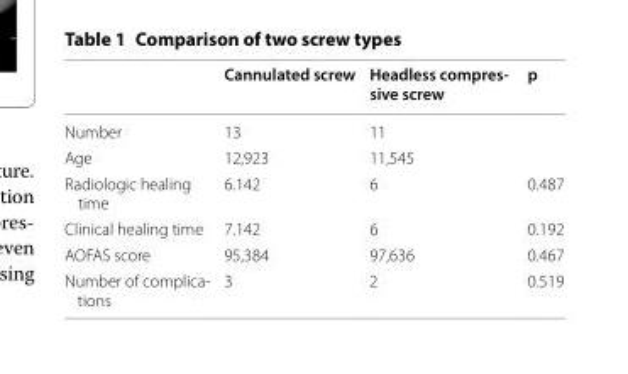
<table><thead><tr><td></td><td>Cannulated screw</td><td>Headless compres- sive screw</td><td>p</td></tr></thead><tbody><tr><td>Number</td><td>13</td><td>11</td><td></td></tr><tr><td>Age</td><td>12,923</td><td>11,545</td><td></td></tr><tr><td>Radiologic healing time</td><td>6.142</td><td>6</td><td>0.487</td></tr><tr><td>Clinical healing time</td><td>7.142</td><td>6</td><td>0.192</td></tr><tr><td>AOFAS score</td><td>95,384</td><td>97,636</td><td>0.467</td></tr><tr><td>Number of complica- tions</td><td>3</td><td>2</td><td>0.519</td></tr></tbody></table>